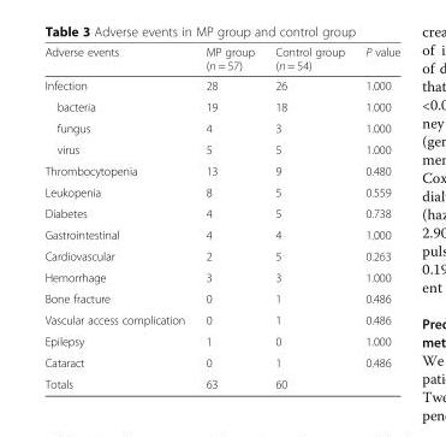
<table><thead><tr><td>Adverse events</td><td>MP group (n = 57)</td><td>Control group (n = 54)</td><td>P value</td></tr></thead><tbody><tr><td>Infection</td><td>28</td><td>26</td><td>1.000</td></tr><tr><td>bacteria</td><td>19</td><td>18</td><td>1.000</td></tr><tr><td>fungus</td><td>4</td><td>3</td><td>1.000</td></tr><tr><td>virus</td><td>5</td><td>5</td><td>1.000</td></tr><tr><td>Thrombocytopenia</td><td>13</td><td>9</td><td>0.480</td></tr><tr><td>Leukopenia</td><td>8</td><td>5</td><td>0.559</td></tr><tr><td>Diabetes</td><td>4</td><td>5</td><td>0.738</td></tr><tr><td>Gastrointestinal</td><td>4</td><td>4</td><td>1.000</td></tr><tr><td>Cardiovascular</td><td>2</td><td>5</td><td>0.263</td></tr><tr><td>Hemorrhage</td><td>3</td><td>3</td><td>1.000</td></tr><tr><td>Bone fracture</td><td>0</td><td>1</td><td>0.486</td></tr><tr><td>Vascular access complication</td><td>0</td><td>1</td><td>0.486</td></tr><tr><td>Epilepsy</td><td>1</td><td>0</td><td>1.000</td></tr><tr><td>Cataract</td><td>0</td><td>1</td><td>0.486</td></tr><tr><td>Totals</td><td>63</td><td>60</td><td></td></tr></tbody></table>